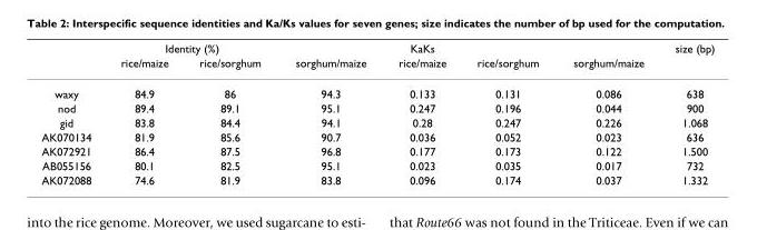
<table><thead><tr><td rowspan="2"></td><td colspan="2">Identity (%)</td><td rowspan="2">sorghum/maize</td><td rowspan="2">KaKs rice/maize</td><td rowspan="2">rice/sorghum</td><td rowspan="2">sorghum/maize</td><td rowspan="2">size (bp)</td></tr><tr><td>rice/maize</td><td>rice/sorghum</td></tr></thead><tbody><tr><td>waxy</td><td>84.9</td><td>86</td><td>94.3</td><td>0.133</td><td>0.131</td><td>0.086</td><td>638</td></tr><tr><td>nod</td><td>89.4</td><td>89.1</td><td>95.1</td><td>0.247</td><td>0.196</td><td>0.044</td><td>900</td></tr><tr><td>gid</td><td>83.8</td><td>84.4</td><td>94.1</td><td>0.28</td><td>0.247</td><td>0.226</td><td>1.068</td></tr><tr><td>AK070134</td><td>81.9</td><td>85.6</td><td>90.7</td><td>0.036</td><td>0.052</td><td>0.023</td><td>636</td></tr><tr><td>AK072921</td><td>86.4</td><td>87.5</td><td>96.8</td><td>0.177</td><td>0.173</td><td>0.122</td><td>1.500</td></tr><tr><td>AB055156</td><td>80.1</td><td>82.5</td><td>95.1</td><td>0.023</td><td>0.035</td><td>0.017</td><td>732</td></tr><tr><td>AK072088</td><td>74.6</td><td>81.9</td><td>83.8</td><td>0.096</td><td>0.174</td><td>0.037</td><td>1.332</td></tr></tbody></table>